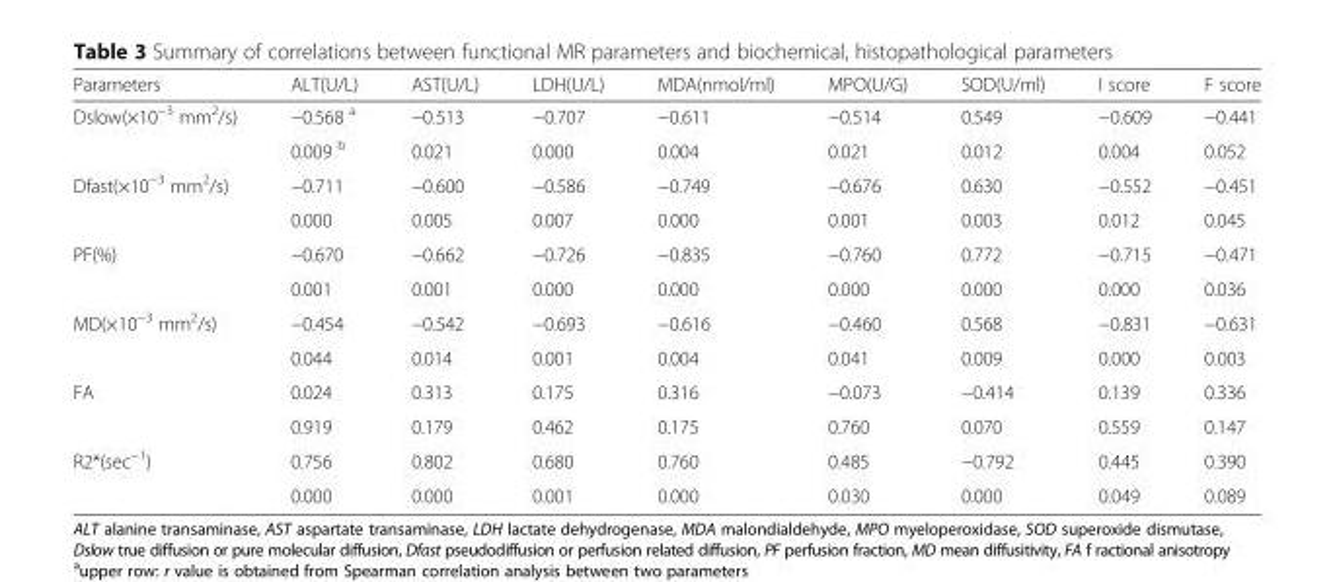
<table><thead><tr><td>Parameters</td><td>ALT(U/L)</td><td>AST(U/L)</td><td>LDH(U/L)</td><td>MDA(nmol/ml)</td><td>MPO(U/G)</td><td>SOD(U/ml)</td><td>I score</td><td>F score</td></tr></thead><tbody><tr><td rowspan="2">Dslow(×10<sup>−3</sup> mm<sup>2</sup>/s)</td><td>−0.568 <sup>a</sup></td><td>−0.513</td><td>−0.707</td><td>−0.611</td><td>−0.514</td><td>0.549</td><td>−0.609</td><td>−0.441</td></tr><tr><td>0.009 <sup>b</sup></td><td>0.021</td><td>0.000</td><td>0.004</td><td>0.021</td><td>0.012</td><td>0.004</td><td>0.052</td></tr><tr><td rowspan="2">Dfast(×10<sup>−3</sup> mm<sup>2</sup>/s)</td><td>−0.711</td><td>−0.600</td><td>−0.586</td><td>−0.749</td><td>−0.676</td><td>0.630</td><td>−0.552</td><td>−0.451</td></tr><tr><td>0.000</td><td>0.005</td><td>0.007</td><td>0.000</td><td>0.001</td><td>0.003</td><td>0.012</td><td>0.045</td></tr><tr><td rowspan="2">PF(%)</td><td>−0.670</td><td>−0.662</td><td>−0.726</td><td>−0.835</td><td>−0.760</td><td>0.772</td><td>−0.715</td><td>−0.471</td></tr><tr><td>0.001</td><td>0.001</td><td>0.000</td><td>0.000</td><td>0.000</td><td>0.000</td><td>0.000</td><td>0.036</td></tr><tr><td rowspan="2">MD(×10<sup>−3</sup> mm<sup>2</sup>/s)</td><td>−0.454</td><td>−0.542</td><td>−0.693</td><td>−0.616</td><td>−0.460</td><td>0.568</td><td>−0.831</td><td>−0.631</td></tr><tr><td>0.044</td><td>0.014</td><td>0.001</td><td>0.004</td><td>0.041</td><td>0.009</td><td>0.000</td><td>0.003</td></tr><tr><td rowspan="2">FA</td><td>0.024</td><td>0.313</td><td>0.175</td><td>0.316</td><td>−0.073</td><td>−0.414</td><td>0.139</td><td>0.336</td></tr><tr><td>0.919</td><td>0.179</td><td>0.462</td><td>0.175</td><td>0.760</td><td>0.070</td><td>0.559</td><td>0.147</td></tr><tr><td rowspan="2">R2*(sec<sup>−1</sup>)</td><td>0.756</td><td>0.802</td><td>0.680</td><td>0.760</td><td>0.485</td><td>−0.792</td><td>0.445</td><td>0.390</td></tr><tr><td>0.000</td><td>0.000</td><td>0.001</td><td>0.000</td><td>0.030</td><td>0.000</td><td>0.049</td><td>0.089</td></tr></tbody></table>